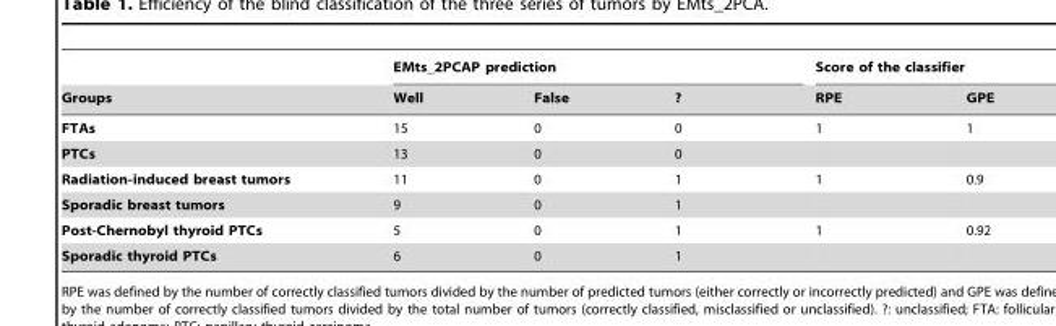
<table><thead><tr><td rowspan="2">Groups</td><td colspan="3">EMts_2PCAP prediction</td><td colspan="2">Score of the classifier</td></tr><tr><td>Well</td><td>False</td><td>?</td><td>RPE</td><td>GPE</td></tr></thead><tbody><tr><td>FTAs</td><td>15</td><td>0</td><td>0</td><td>1</td><td>1</td></tr><tr><td>PTCs</td><td>13</td><td>0</td><td>0</td><td></td><td></td></tr><tr><td>Radiation-induced breast tumors</td><td>11</td><td>0</td><td>1</td><td>1</td><td>0.9</td></tr><tr><td>Sporadic breast tumors</td><td>9</td><td>0</td><td>1</td><td></td><td></td></tr><tr><td>Post-Chernobyl thyroid PTCs</td><td>5</td><td>0</td><td>1</td><td>1</td><td>0.92</td></tr><tr><td>Sporadic thyroid PTCs</td><td>6</td><td>0</td><td>1</td><td></td><td></td></tr></tbody></table>